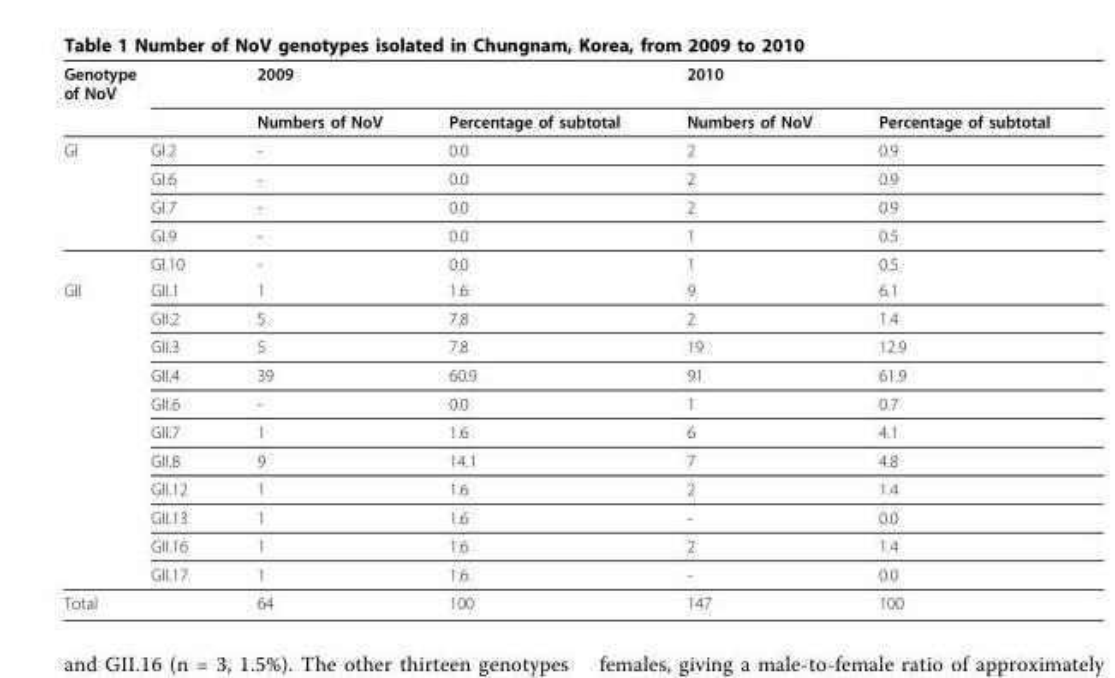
<table><thead><tr><td colspan="2">Genotype of NoV</td><td colspan="2">2009</td><td colspan="2">2010</td></tr><tr><td></td><td></td><td>Numbers of NoV</td><td>Percentage of subtotal</td><td>Numbers of NoV</td><td>Percentage of subtotal</td></tr></thead><tbody><tr><td rowspan="5">GI</td><td>GI.2</td><td>-</td><td>0.0</td><td>2</td><td>0.9</td></tr><tr><td>GI.6</td><td>-</td><td>0.0</td><td>2</td><td>0.9</td></tr><tr><td>GI.7</td><td>-</td><td>0.0</td><td>2</td><td>0.9</td></tr><tr><td>GI.9</td><td>-</td><td>0.0</td><td>1</td><td>0.5</td></tr><tr><td>GI.10</td><td>-</td><td>0.0</td><td>1</td><td>0.5</td></tr><tr><td rowspan="11">GII</td><td>GII.1</td><td>1</td><td>1.6</td><td>9</td><td>6.1</td></tr><tr><td>GII.2</td><td>5</td><td>7.8</td><td>2</td><td>1.4</td></tr><tr><td>GII.3</td><td>5</td><td>7.8</td><td>19</td><td>12.9</td></tr><tr><td>GII.4</td><td>39</td><td>60.9</td><td>91</td><td>61.9</td></tr><tr><td>GII.6</td><td>-</td><td>0.0</td><td>1</td><td>0.7</td></tr><tr><td>GII.7</td><td>1</td><td>1.6</td><td>6</td><td>4.1</td></tr><tr><td>GII.8</td><td>9</td><td>14.1</td><td>7</td><td>4.8</td></tr><tr><td>GII.12</td><td>1</td><td>1.6</td><td>2</td><td>1.4</td></tr><tr><td>GII.13</td><td>1</td><td>1.6</td><td>-</td><td>0.0</td></tr><tr><td>GII.16</td><td>1</td><td>1.6</td><td>2</td><td>1.4</td></tr><tr><td>GII.17</td><td>1</td><td>1.6</td><td>-</td><td>0.0</td></tr><tr><td colspan="2">Total</td><td>64</td><td>100</td><td>147</td><td>100</td></tr></tbody></table>